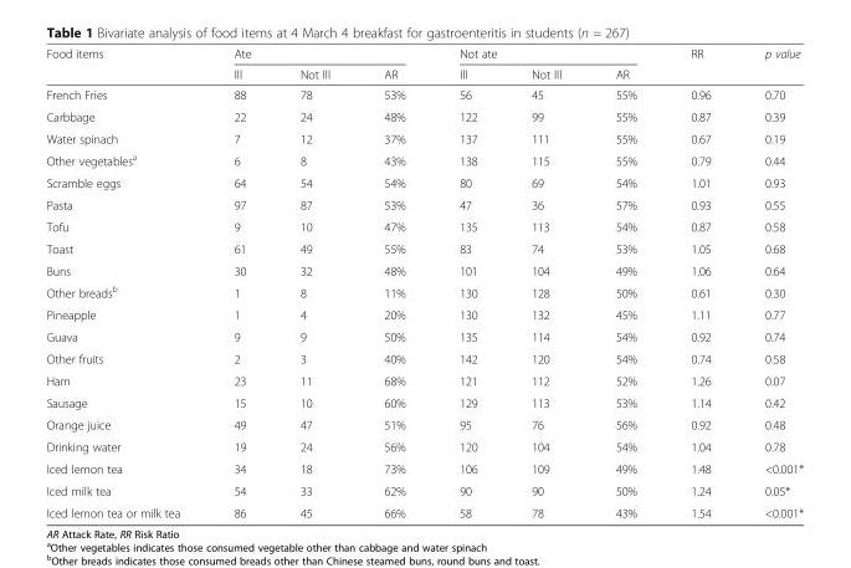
<table><thead><tr><td rowspan="2">Food items</td><td colspan="3">Ate</td><td colspan="3">Not ate</td><td rowspan="2">RR</td><td rowspan="2">p value</td></tr><tr><td>Ill</td><td>Not Ill</td><td>AR</td><td>Ill</td><td>Not Ill</td><td>AR</td></tr></thead><tbody><tr><td>French Fries</td><td>88</td><td>78</td><td>53%</td><td>56</td><td>45</td><td>55%</td><td>0.96</td><td>0.70</td></tr><tr><td>Carbbage</td><td>22</td><td>24</td><td>48%</td><td>122</td><td>99</td><td>55%</td><td>0.87</td><td>0.39</td></tr><tr><td>Water spinach</td><td>7</td><td>12</td><td>37%</td><td>137</td><td>111</td><td>55%</td><td>0.67</td><td>0.19</td></tr><tr><td>Other vegetables<sup>a</sup></td><td>6</td><td>8</td><td>43%</td><td>138</td><td>115</td><td>55%</td><td>0.79</td><td>0.44</td></tr><tr><td>Scramble eggs</td><td>64</td><td>54</td><td>54%</td><td>80</td><td>69</td><td>54%</td><td>1.01</td><td>0.93</td></tr><tr><td>Pasta</td><td>97</td><td>87</td><td>53%</td><td>47</td><td>36</td><td>57%</td><td>0.93</td><td>0.55</td></tr><tr><td>Tofu</td><td>9</td><td>10</td><td>47%</td><td>135</td><td>113</td><td>54%</td><td>0.87</td><td>0.58</td></tr><tr><td>Toast</td><td>61</td><td>49</td><td>55%</td><td>83</td><td>74</td><td>53%</td><td>1.05</td><td>0.68</td></tr><tr><td>Buns</td><td>30</td><td>32</td><td>48%</td><td>101</td><td>104</td><td>49%</td><td>1.06</td><td>0.64</td></tr><tr><td>Other breads<sup>b</sup></td><td>1</td><td>8</td><td>11%</td><td>130</td><td>128</td><td>50%</td><td>0.61</td><td>0.30</td></tr><tr><td>Pineapple</td><td>1</td><td>4</td><td>20%</td><td>130</td><td>132</td><td>45%</td><td>1.11</td><td>0.77</td></tr><tr><td>Guava</td><td>9</td><td>9</td><td>50%</td><td>135</td><td>114</td><td>54%</td><td>0.92</td><td>0.74</td></tr><tr><td>Other fruits</td><td>2</td><td>3</td><td>40%</td><td>142</td><td>120</td><td>54%</td><td>0.74</td><td>0.58</td></tr><tr><td>Ham</td><td>23</td><td>11</td><td>68%</td><td>121</td><td>112</td><td>52%</td><td>1.26</td><td>0.07</td></tr><tr><td>Sausage</td><td>15</td><td>10</td><td>60%</td><td>129</td><td>113</td><td>53%</td><td>1.14</td><td>0.42</td></tr><tr><td>Orange juice</td><td>49</td><td>47</td><td>51%</td><td>95</td><td>76</td><td>56%</td><td>0.92</td><td>0.48</td></tr><tr><td>Drinking water</td><td>19</td><td>24</td><td>56%</td><td>120</td><td>104</td><td>54%</td><td>1.04</td><td>0.78</td></tr><tr><td>Iced lemon tea</td><td>34</td><td>18</td><td>73%</td><td>106</td><td>109</td><td>49%</td><td>1.48</td><td>&lt;0.001*</td></tr><tr><td>Iced milk tea</td><td>54</td><td>33</td><td>62%</td><td>90</td><td>90</td><td>50%</td><td>1.24</td><td>0.05*</td></tr><tr><td>Iced lemon tea or milk tea</td><td>86</td><td>45</td><td>66%</td><td>58</td><td>78</td><td>43%</td><td>1.54</td><td>&lt;0.001*</td></tr></tbody></table>